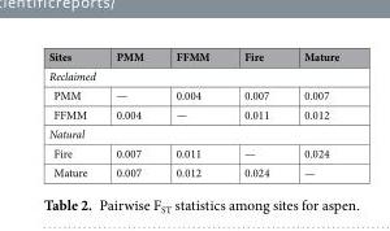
<table><thead><tr><td>Sites</td><td>PMM</td><td>FFMM</td><td>Fire</td><td>Mature</td></tr></thead><tbody><tr><td colspan="5">Reclaimed</td></tr><tr><td>PMM</td><td>—</td><td>0.004</td><td>0.007</td><td>0.007</td></tr><tr><td>FFMM</td><td>0.004</td><td>—</td><td>0.011</td><td>0.012</td></tr><tr><td colspan="5">Natural</td></tr><tr><td>Fire</td><td>0.007</td><td>0.011</td><td>—</td><td>0.024</td></tr><tr><td>Mature</td><td>0.007</td><td>0.012</td><td>0.024</td><td>—</td></tr></tbody></table>